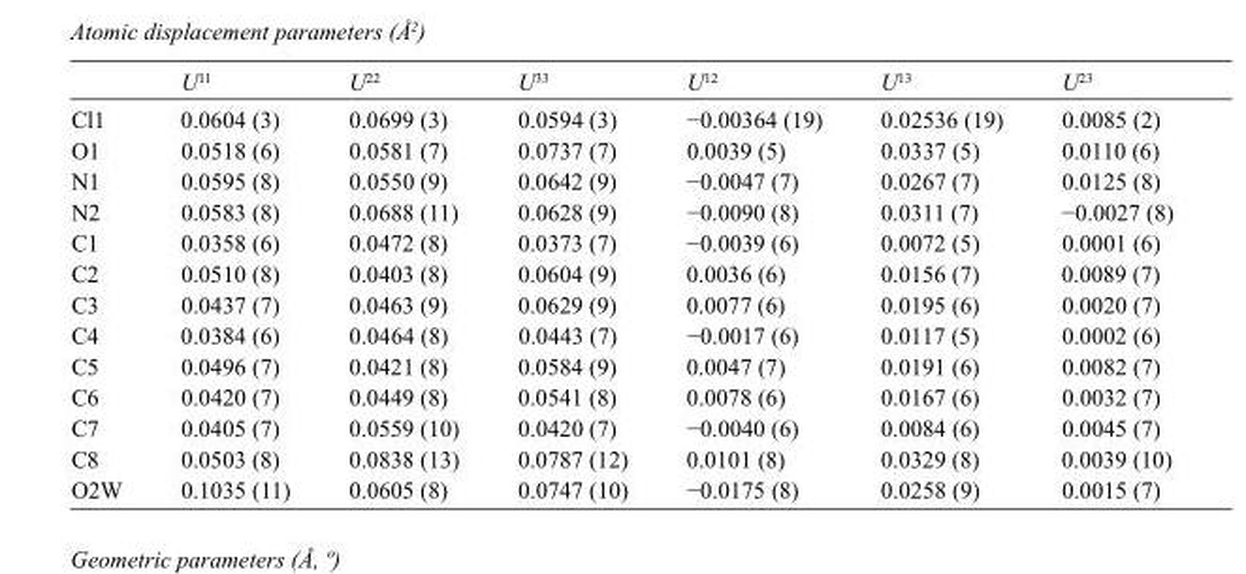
<table><thead><tr><td></td><td>U<sup>11</sup></td><td>U<sup>22</sup></td><td>U<sup>33</sup></td><td>U<sup>12</sup></td><td>U<sup>13</sup></td><td>U<sup>23</sup></td></tr></thead><tbody><tr><td>Cl1</td><td>0.0604 (3)</td><td>0.0699 (3)</td><td>0.0594 (3)</td><td>−0.00364 (19)</td><td>0.02536 (19)</td><td>0.0085 (2)</td></tr><tr><td>O1</td><td>0.0518 (6)</td><td>0.0581 (7)</td><td>0.0737 (7)</td><td>0.0039 (5)</td><td>0.0337 (5)</td><td>0.0110 (6)</td></tr><tr><td>N1</td><td>0.0595 (8)</td><td>0.0550 (9)</td><td>0.0642 (9)</td><td>−0.0047 (7)</td><td>0.0267 (7)</td><td>0.0125 (8)</td></tr><tr><td>N2</td><td>0.0583 (8)</td><td>0.0688 (11)</td><td>0.0628 (9)</td><td>−0.0090 (8)</td><td>0.0311 (7)</td><td>−0.0027 (8)</td></tr><tr><td>C1</td><td>0.0358 (6)</td><td>0.0472 (8)</td><td>0.0373 (7)</td><td>−0.0039 (6)</td><td>0.0072 (5)</td><td>0.0001 (6)</td></tr><tr><td>C2</td><td>0.0510 (8)</td><td>0.0403 (8)</td><td>0.0604 (9)</td><td>0.0036 (6)</td><td>0.0156 (7)</td><td>0.0089 (7)</td></tr><tr><td>C3</td><td>0.0437 (7)</td><td>0.0463 (9)</td><td>0.0629 (9)</td><td>0.0077 (6)</td><td>0.0195 (6)</td><td>0.0020 (7)</td></tr><tr><td>C4</td><td>0.0384 (6)</td><td>0.0464 (8)</td><td>0.0443 (7)</td><td>−0.0017 (6)</td><td>0.0117 (5)</td><td>0.0002 (6)</td></tr><tr><td>C5</td><td>0.0496 (7)</td><td>0.0421 (8)</td><td>0.0584 (9)</td><td>0.0047 (7)</td><td>0.0191 (6)</td><td>0.0082 (7)</td></tr><tr><td>C6</td><td>0.0420 (7)</td><td>0.0449 (8)</td><td>0.0541 (8)</td><td>0.0078 (6)</td><td>0.0167 (6)</td><td>0.0032 (7)</td></tr><tr><td>C7</td><td>0.0405 (7)</td><td>0.0559 (10)</td><td>0.0420 (7)</td><td>−0.0040 (6)</td><td>0.0084 (6)</td><td>0.0045 (7)</td></tr><tr><td>C8</td><td>0.0503 (8)</td><td>0.0838 (13)</td><td>0.0787 (12)</td><td>0.0101 (8)</td><td>0.0329 (8)</td><td>0.0039 (10)</td></tr><tr><td>O2W</td><td>0.1035 (11)</td><td>0.0605 (8)</td><td>0.0747 (10)</td><td>−0.0175 (8)</td><td>0.0258 (9)</td><td>0.0015 (7)</td></tr></tbody></table>